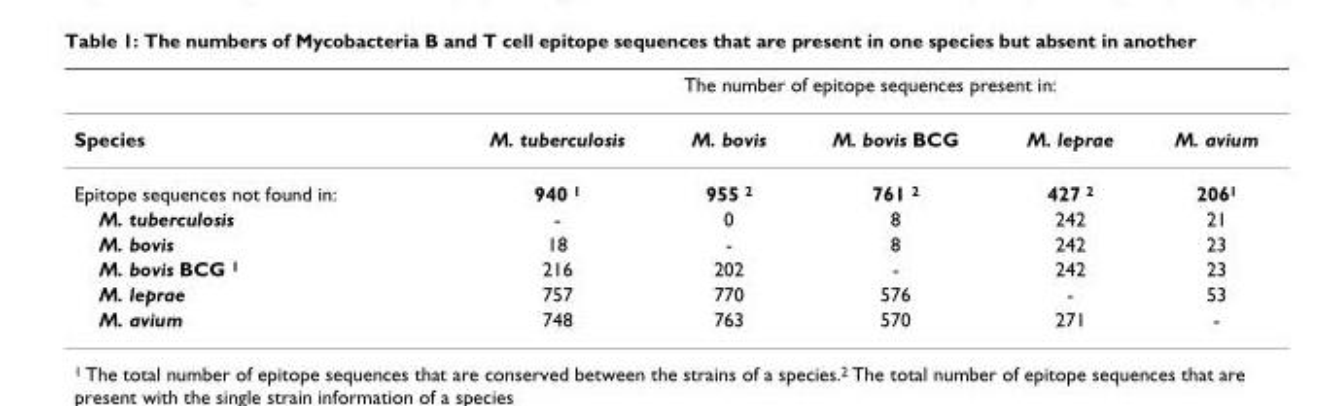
<table><thead><tr><td rowspan="2">Species</td><td colspan="5">The number of epitope sequences present in:</td></tr><tr><td>M. tuberculosis</td><td>M. bovis</td><td>M. bovis BCG</td><td>M. leprae</td><td>M. avium</td></tr></thead><tbody><tr><td>Epitope sequences not found in:</td><td>940 <sup>1</sup></td><td>955 <sup>2</sup></td><td>761 <sup>2</sup></td><td>427 <sup>2</sup></td><td>206<sup>1</sup></td></tr><tr><td>M. tuberculosis</td><td>-</td><td>0</td><td>8</td><td>242</td><td>21</td></tr><tr><td>M. bovis</td><td>18</td><td>-</td><td>8</td><td>242</td><td>23</td></tr><tr><td>M. bovis BCG <sup>1</sup></td><td>216</td><td>202</td><td>-</td><td>242</td><td>23</td></tr><tr><td>M. leprae</td><td>757</td><td>770</td><td>576</td><td>-</td><td>53</td></tr><tr><td>M. avium</td><td>748</td><td>763</td><td>570</td><td>271</td><td>-</td></tr></tbody></table>